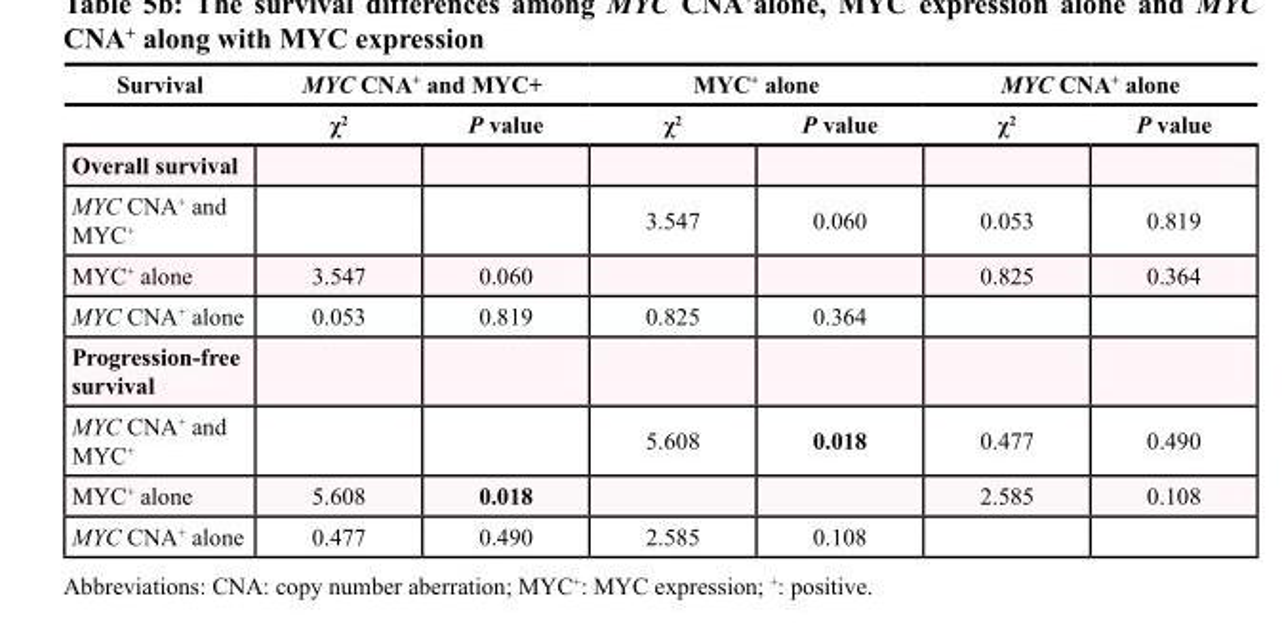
<table><thead><tr><td rowspan="2">Survival</td><td colspan="2">MYC CNA<sup>+</sup> and MYC+</td><td colspan="2">MYC<sup>+</sup> alone</td><td colspan="2">MYC CNA<sup>+</sup> alone</td></tr><tr><td>χ<sup>2</sup></td><td>P value</td><td>χ<sup>2</sup></td><td>P value</td><td>χ<sup>2</sup></td><td>P value</td></tr></thead><tbody><tr><td colspan="7">Overall survival</td></tr><tr><td>MYC CNA<sup>+</sup> and MYC<sup>+</sup></td><td></td><td></td><td>3.547</td><td>0.060</td><td>0.053</td><td>0.819</td></tr><tr><td>MYC<sup>+</sup> alone</td><td>3.547</td><td>0.060</td><td></td><td></td><td>0.825</td><td>0.364</td></tr><tr><td>MYC CNA<sup>+</sup> alone</td><td>0.053</td><td>0.819</td><td>0.825</td><td>0.364</td><td></td><td></td></tr><tr><td colspan="7">Progression-free survival</td></tr><tr><td>MYC CNA<sup>+</sup> and MYC<sup>+</sup></td><td></td><td></td><td>5.608</td><td>0.018</td><td>0.477</td><td>0.490</td></tr><tr><td>MYC<sup>+</sup> alone</td><td>5.608</td><td>0.018</td><td></td><td></td><td>2.585</td><td>0.108</td></tr><tr><td>MYC CNA<sup>+</sup> alone</td><td>0.477</td><td>0.490</td><td>2.585</td><td>0.108</td><td></td><td></td></tr></tbody></table>